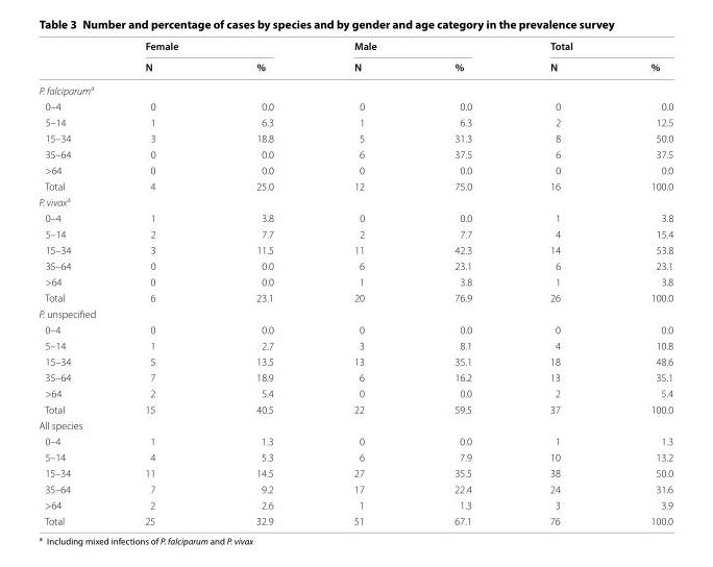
<table><thead><tr><td rowspan="2"></td><td colspan="2">Female</td><td colspan="2">Male</td><td colspan="2">Total</td></tr><tr><td>N</td><td>%</td><td>N</td><td>%</td><td>N</td><td>%</td></tr></thead><tbody><tr><td colspan="7">P. falciparum<sup>a</sup></td></tr><tr><td>0–4</td><td>0</td><td>0.0</td><td>0</td><td>0.0</td><td>0</td><td>0.0</td></tr><tr><td>5–14</td><td>1</td><td>6.3</td><td>1</td><td>6.3</td><td>2</td><td>12.5</td></tr><tr><td>15–34</td><td>3</td><td>18.8</td><td>5</td><td>31.3</td><td>8</td><td>50.0</td></tr><tr><td>35–64</td><td>0</td><td>0.0</td><td>6</td><td>37.5</td><td>6</td><td>37.5</td></tr><tr><td>&gt;64</td><td>0</td><td>0.0</td><td>0</td><td>0.0</td><td>0</td><td>0.0</td></tr><tr><td>Total</td><td>4</td><td>25.0</td><td>12</td><td>75.0</td><td>16</td><td>100.0</td></tr><tr><td colspan="7">P. vivax<sup>a</sup></td></tr><tr><td>0–4</td><td>1</td><td>3.8</td><td>0</td><td>0.0</td><td>1</td><td>3.8</td></tr><tr><td>5–14</td><td>2</td><td>7.7</td><td>2</td><td>7.7</td><td>4</td><td>15.4</td></tr><tr><td>15–34</td><td>3</td><td>11.5</td><td>11</td><td>42.3</td><td>14</td><td>53.8</td></tr><tr><td>35–64</td><td>0</td><td>0.0</td><td>6</td><td>23.1</td><td>6</td><td>23.1</td></tr><tr><td>&gt;64</td><td>0</td><td>0.0</td><td>1</td><td>3.8</td><td>1</td><td>3.8</td></tr><tr><td>Total</td><td>6</td><td>23.1</td><td>20</td><td>76.9</td><td>26</td><td>100.0</td></tr><tr><td colspan="7">P. unspecified</td></tr><tr><td>0–4</td><td>0</td><td>0.0</td><td>0</td><td>0.0</td><td>0</td><td>0.0</td></tr><tr><td>5–14</td><td>1</td><td>2.7</td><td>3</td><td>8.1</td><td>4</td><td>10.8</td></tr><tr><td>15–34</td><td>5</td><td>13.5</td><td>13</td><td>35.1</td><td>18</td><td>48.6</td></tr><tr><td>35–64</td><td>7</td><td>18.9</td><td>6</td><td>16.2</td><td>13</td><td>35.1</td></tr><tr><td>&gt;64</td><td>2</td><td>5.4</td><td>0</td><td>0.0</td><td>2</td><td>5.4</td></tr><tr><td>Total</td><td>15</td><td>40.5</td><td>22</td><td>59.5</td><td>37</td><td>100.0</td></tr><tr><td colspan="7">All species</td></tr><tr><td>0–4</td><td>1</td><td>1.3</td><td>0</td><td>0.0</td><td>1</td><td>1.3</td></tr><tr><td>5–14</td><td>4</td><td>5.3</td><td>6</td><td>7.9</td><td>10</td><td>13.2</td></tr><tr><td>15–34</td><td>11</td><td>14.5</td><td>27</td><td>35.5</td><td>38</td><td>50.0</td></tr><tr><td>35–64</td><td>7</td><td>9.2</td><td>17</td><td>22.4</td><td>24</td><td>31.6</td></tr><tr><td>&gt;64</td><td>2</td><td>2.6</td><td>1</td><td>1.3</td><td>3</td><td>3.9</td></tr><tr><td>Total</td><td>25</td><td>32.9</td><td>51</td><td>67.1</td><td>76</td><td>100.0</td></tr></tbody></table>